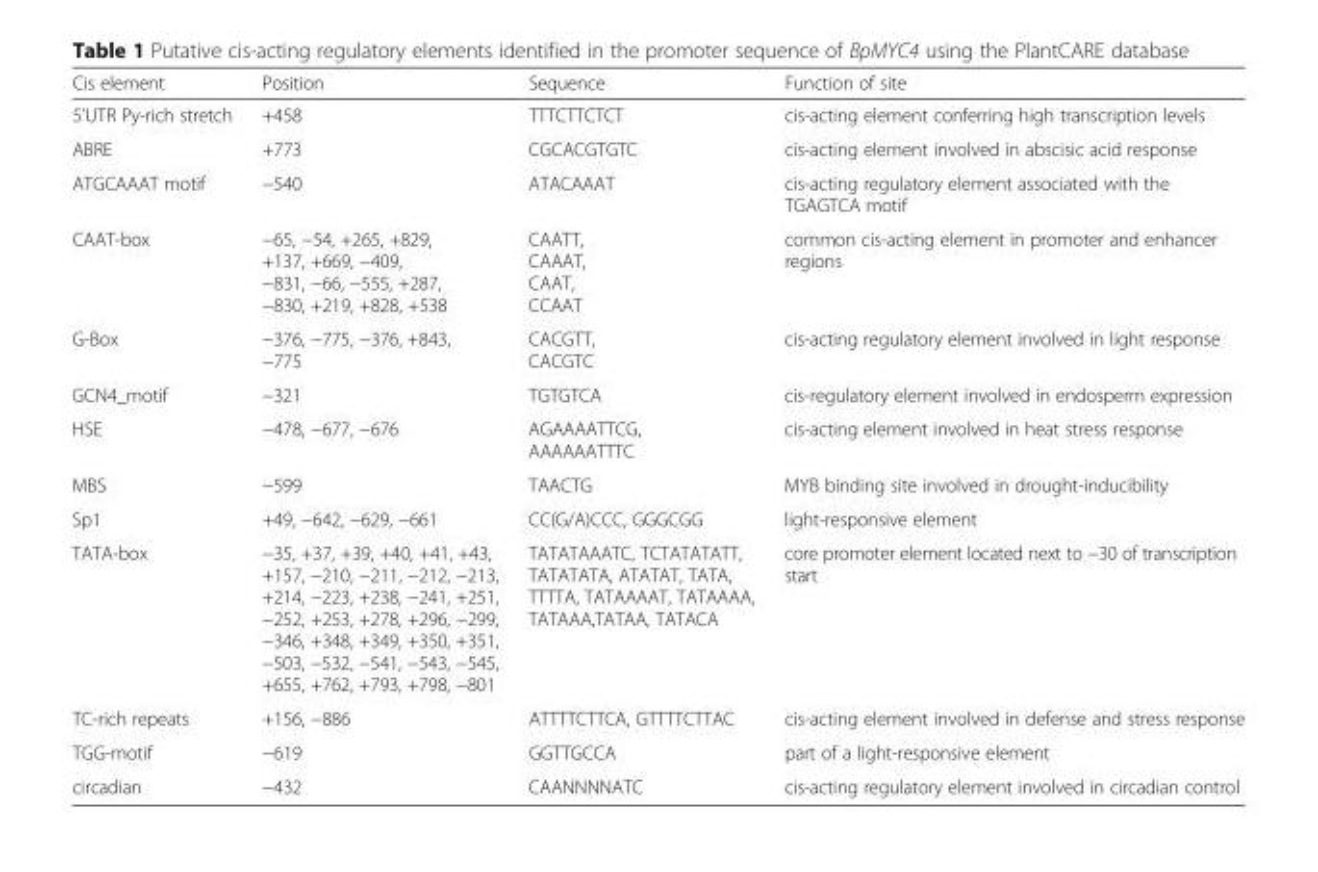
<table><thead><tr><td>Cis element</td><td>Position</td><td>Sequence</td><td>Function of site</td></tr></thead><tbody><tr><td>5’UTR Py-rich stretch</td><td>+458</td><td>TTTCTTCTCT</td><td>cis-acting element conferring high transcription levels</td></tr><tr><td>ABRE</td><td>+773</td><td>CGCACGTGTC</td><td>cis-acting element involved in abscisic acid response</td></tr><tr><td>ATGCAAAT motif</td><td>−540</td><td>ATACAAAT</td><td>cis-acting regulatory element associated with the TGAGTCA motif</td></tr><tr><td>CAAT-box</td><td>−65, −54, +265, +829, +137, +669, −409, −831, −66, −555, +287, −830, +219, +828, +538</td><td>CAATT, CAAAT, CAAT, CCAAT</td><td>common cis-acting element in promoter and enhancer regions</td></tr><tr><td>G-Box</td><td>−376, −775, −376, +843, −775</td><td>CACGTT, CACGTC</td><td>cis-acting regulatory element involved in light response</td></tr><tr><td>GCN4_motif</td><td>−321</td><td>TGTGTCA</td><td>cis-regulatory element involved in endosperm expression</td></tr><tr><td>HSE</td><td>−478, −677, −676</td><td>AGAAAATTCG, AAAAAATTTC</td><td>cis-acting element involved in heat stress response</td></tr><tr><td>MBS</td><td>−599</td><td>TAACTG</td><td>MYB binding site involved in drought-inducibility</td></tr><tr><td>Sp1</td><td>+49, −642, −629, −661</td><td>CC(G/A)CCC, GGGCGG</td><td>light-responsive element</td></tr><tr><td>TATA-box</td><td>−35, +37, +39, +40, +41, +43, +157, −210, −211, −212, −213, +214, −223, +238, −241, +251, −252, +253, +278, +296, −299, −346, +348, +349, +350, +351, −503, −532, −541, −543, −545, +655, +762, +793, +798, −801</td><td>TATATAAATC, TCTATATATT, TATATATA, ATATAT, TATA, TTTTA, TATAAAAT, TATAAAA, TATAAA,TATAA, TATACA</td><td>core promoter element located next to −30 of transcription start</td></tr><tr><td>TC-rich repeats</td><td>+156, −886</td><td>ATTTTCTTCA, GTTTTCTTAC</td><td>cis-acting element involved in defense and stress response</td></tr><tr><td>TGG-motif</td><td>−619</td><td>GGTTGCCA</td><td>part of a light-responsive element</td></tr><tr><td>circadian</td><td>−432</td><td>CAANNNNATC</td><td>cis-acting regulatory element involved in circadian control</td></tr></tbody></table>